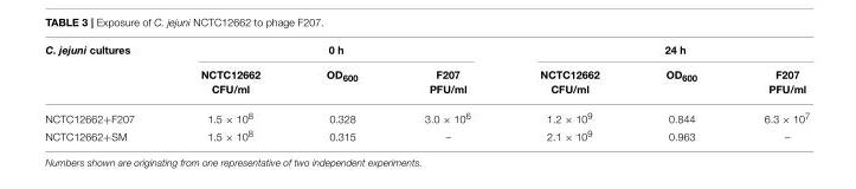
<table><thead><tr><td rowspan="2">C. jejuni cultures</td><td colspan="3">0 h</td><td colspan="3">24 h</td></tr><tr><td>NCTC12662 CFU/ml</td><td>OD<sub>600</sub></td><td>F207 PFU/ml</td><td>NCTC12662 CFU/ml</td><td>OD<sub>600</sub></td><td>F207 PFU/ml</td></tr></thead><tbody><tr><td>NCTC12662+F207</td><td>1.5 × 10<sup>8</sup></td><td>0.328</td><td>3.0 × 10<sup>6</sup></td><td>1.2 × 10<sup>9</sup></td><td>0.844</td><td>6.3 × 10<sup>7</sup></td></tr><tr><td>NCTC12662+SM</td><td>1.5 × 10<sup>8</sup></td><td>0.315</td><td>–</td><td>2.1 × 10<sup>9</sup></td><td>0.963</td><td>–</td></tr></tbody></table>